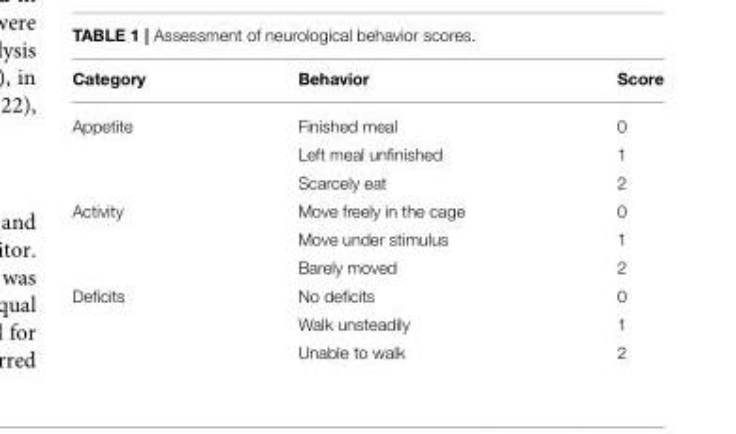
<table><thead><tr><td>Category</td><td>Behavior</td><td>Score</td></tr></thead><tbody><tr><td rowspan="3">Appetite</td><td>Finished meal</td><td>0</td></tr><tr><td>Left meal unfinished</td><td>1</td></tr><tr><td>Scarcely eat</td><td>2</td></tr><tr><td rowspan="3">Activity</td><td>Move freely in the cage</td><td>0</td></tr><tr><td>Move under stimulus</td><td>1</td></tr><tr><td>Barely moved</td><td>2</td></tr><tr><td rowspan="3">Deficits</td><td>No deficits</td><td>0</td></tr><tr><td>Walk unsteadily</td><td>1</td></tr><tr><td>Unable to walk</td><td>2</td></tr></tbody></table>